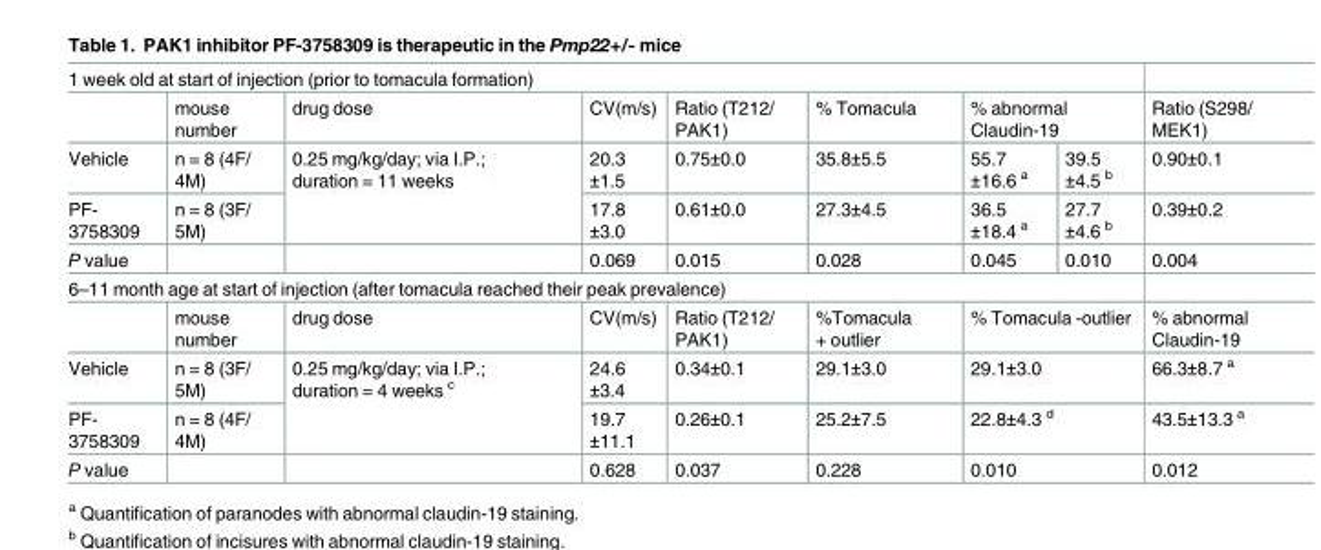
<table><tbody><tr><td colspan="9">1 week old at start of injection (prior to tomacula formation)</td></tr><tr><td></td><td>mouse number</td><td>drug dose</td><td>CV(m/s)</td><td>Ratio (T212/ PAK1)</td><td>% Tomacula</td><td colspan="2">% abnormal Claudin-19</td><td>Ratio (S298/ MEK1)</td></tr><tr><td>Vehicle</td><td>n = 8 (4F/ 4M)</td><td rowspan="2">0.25 mg/kg/day; via I.P.; duration = 11 weeks</td><td>20.3 ±1.5</td><td>0.75±0.0</td><td>35.8±5.5</td><td>55.7 ±16.6 <sup>a</sup></td><td>39.5 ±4.5 <sup>b</sup></td><td>0.90±0.1</td></tr><tr><td>PF- 3758309</td><td>n = 8 (3F/ 5M)</td><td>17.8 ±3.0</td><td>0.61±0.0</td><td>27.3±4.5</td><td>36.5 ±18.4 <sup>a</sup></td><td>27.7 ±4.6 <sup>b</sup></td><td>0.39±0.2</td></tr><tr><td>P value</td><td></td><td></td><td>0.069</td><td>0.015</td><td>0.028</td><td>0.045</td><td>0.010</td><td>0.004</td></tr><tr><td colspan="9">6–11 month age at start of injection (after tomacula reached their peak prevalence)</td></tr><tr><td></td><td>mouse number</td><td>drug dose</td><td>CV(m/s)</td><td>Ratio (T212/ PAK1)</td><td>%Tomacula + outlier</td><td colspan="2">% Tomacula -outlier</td><td>% abnormal Claudin-19</td></tr><tr><td>Vehicle</td><td>n = 8 (3F/ 5M)</td><td rowspan="2">0.25 mg/kg/day; via I.P.; duration = 4 weeks <sup>c</sup></td><td>24.6 ±3.4</td><td>0.34±0.1</td><td>29.1±3.0</td><td colspan="2">29.1±3.0</td><td>66.3±8.7 <sup>a</sup></td></tr><tr><td>PF- 3758309</td><td>n = 8 (4F/ 4M)</td><td>19.7 ±11.1</td><td>0.26±0.1</td><td>25.2±7.5</td><td colspan="2">22.8±4.3 <sup>d</sup></td><td>43.5±13.3 <sup>a</sup></td></tr><tr><td>P value</td><td></td><td></td><td>0.628</td><td>0.037</td><td>0.228</td><td colspan="2">0.010</td><td>0.012</td></tr></tbody></table>